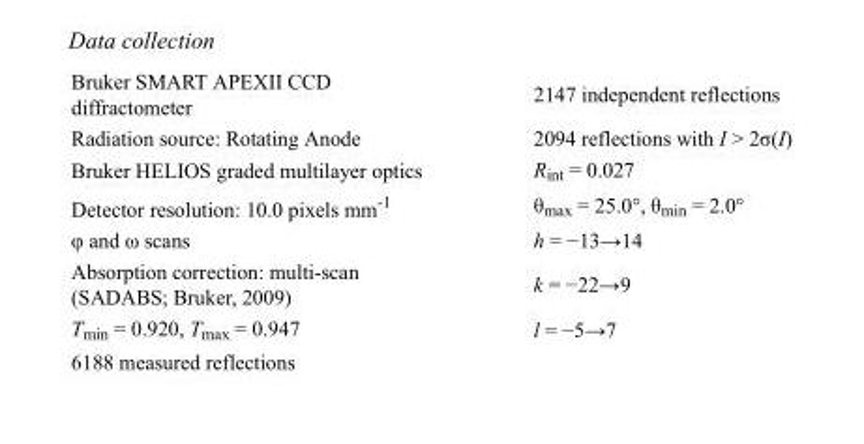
<table><tbody><tr><td>Bruker SMART APEXII CCD diffractometer</td><td>2147 independent reflections</td></tr><tr><td>Radiation source: Rotating Anode</td><td>2094 reflections with I &gt; 2σ(I)</td></tr><tr><td>Bruker HELIOS graded multilayer optics</td><td>R<sub>int</sub> = 0.027</td></tr><tr><td>Detector resolution: 10.0 pixels mm<sup>-1</sup></td><td>θ<sub>max</sub> = 25.0°, θ<sub>min</sub> = 2.0°</td></tr><tr><td>φ and ω scans</td><td>h = −13→14</td></tr><tr><td>Absorption correction: multi-scan (SADABS; Bruker, 2009)</td><td>k = −22→9</td></tr><tr><td>T<sub>min</sub> = 0.920, T<sub>max</sub> = 0.947</td><td>l = −5→7</td></tr><tr><td>6188 measured reflections</td><td></td></tr></tbody></table>